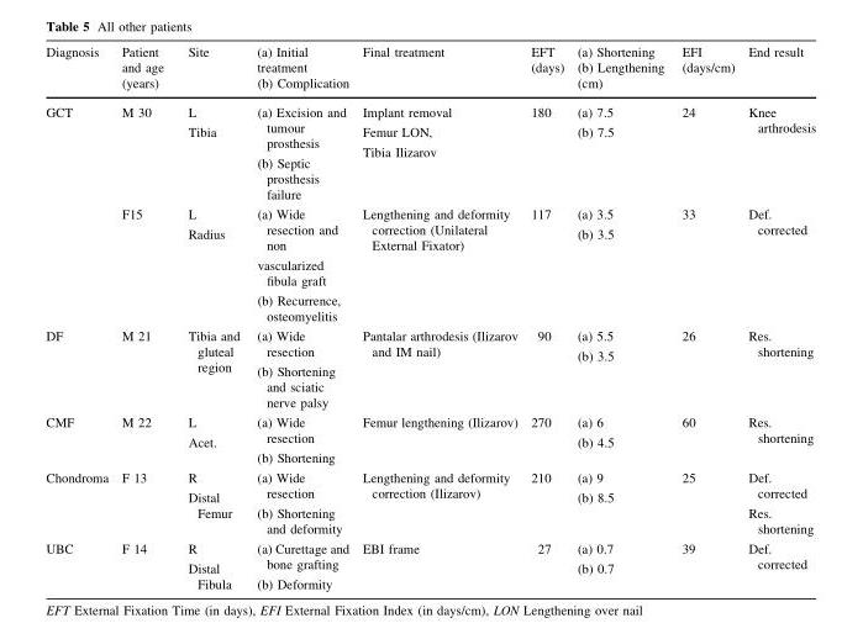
<table><thead><tr><td>Diagnosis</td><td>Patient and age (years)</td><td>Site</td><td>(a) Initial treatment (b) Complication</td><td>Final treatment</td><td>EFT (days)</td><td>(a) Shortening (b) Lengthening (cm)</td><td>EFI (days/cm)</td><td>End result</td></tr></thead><tbody><tr><td rowspan="2">GCT</td><td>M 30</td><td>L Tibia</td><td>(a) Excision and tumour prosthesis (b) Septic prosthesis failure</td><td>Implant removal Femur LON, Tibia Ilizarov</td><td>180</td><td>(a) 7.5 (b) 7.5</td><td>24</td><td>Knee arthrodesis</td></tr><tr><td>F15</td><td>L Radius</td><td>(a) Wide resection and non vascularized fibula graft (b) Recurrence, osteomyelitis</td><td>Lengthening and deformity correction (Unilateral External Fixator)</td><td>117</td><td>(a) 3.5 (b) 3.5</td><td>33</td><td>Def. corrected</td></tr><tr><td>DF</td><td>M 21</td><td>Tibia and gluteal region</td><td>(a) Wide resection (b) Shortening and sciatic nerve palsy</td><td>Pantalar arthrodesis (Ilizarov and IM nail)</td><td>90</td><td>(a) 5.5 (b) 3.5</td><td>26</td><td>Res. shortening</td></tr><tr><td>CMF</td><td>M 22</td><td>L Acet.</td><td>(a) Wide resection (b) Shortening</td><td>Femur lengthening (Ilizarov)</td><td>270</td><td>(a) 6 (b) 4.5</td><td>60</td><td>Res. shortening</td></tr><tr><td>Chondroma</td><td>F 13</td><td>R Distal Femur</td><td>(a) Wide resection (b) Shortening and deformity</td><td>Lengthening and deformity correction (Ilizarov)</td><td>210</td><td>(a) 9 (b) 8.5</td><td>25</td><td>Def. corrected Res. shortening</td></tr><tr><td>UBC</td><td>F 14</td><td>R Distal Fibula</td><td>(a) Curettage and bone grafting (b) Deformity</td><td>EBI frame</td><td>27</td><td>(a) 0.7 (b) 0.7</td><td>39</td><td>Def. corrected</td></tr></tbody></table>